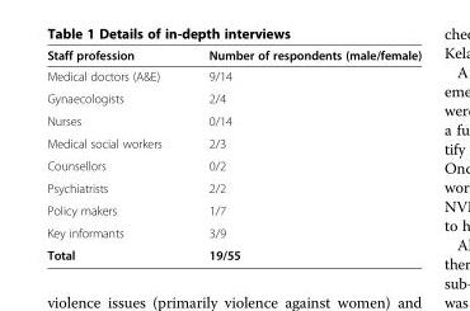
<table><thead><tr><td>Staff profession</td><td>Number of respondents (male/female)</td></tr></thead><tbody><tr><td>Medical doctors (A&amp;E)</td><td>9/14</td></tr><tr><td>Gynaecologists</td><td>2/4</td></tr><tr><td>Nurses</td><td>0/14</td></tr><tr><td>Medical social workers</td><td>2/3</td></tr><tr><td>Counsellors</td><td>0/2</td></tr><tr><td>Psychiatrists</td><td>2/2</td></tr><tr><td>Policy makers</td><td>1/7</td></tr><tr><td>Key informants</td><td>3/9</td></tr><tr><td>Total</td><td>19/55</td></tr></tbody></table>